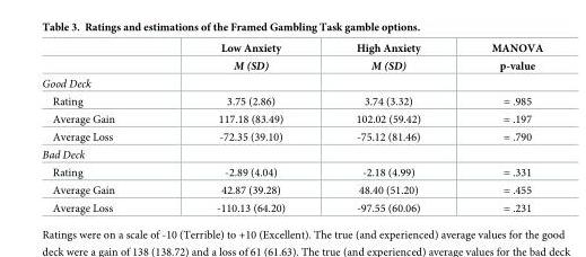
<table><thead><tr><td rowspan="2"></td><td rowspan="2">Low Anxiety M (SD)</td><td rowspan="2">High Anxiety M (SD)</td><td rowspan="2">MANOVA p-value</td></tr><tr></tr></thead><tbody><tr><td colspan="4">Good Deck</td></tr><tr><td>Rating</td><td>3.75 (2.86)</td><td>3.74 (3.32)</td><td>= .985</td></tr><tr><td>Average Gain</td><td>117.18 (83.49)</td><td>102.02 (59.42)</td><td>= .197</td></tr><tr><td>Average Loss</td><td>-72.35 (39.10)</td><td>-75.12 (81.46)</td><td>= .790</td></tr><tr><td colspan="4">Bad Deck</td></tr><tr><td>Rating</td><td>-2.89 (4.04)</td><td>-2.18 (4.99)</td><td>= .331</td></tr><tr><td>Average Gain</td><td>42.87 (39.28)</td><td>48.40 (51.20)</td><td>= .455</td></tr><tr><td>Average Loss</td><td>-110.13 (64.20)</td><td>-97.55 (60.06)</td><td>= .231</td></tr></tbody></table>